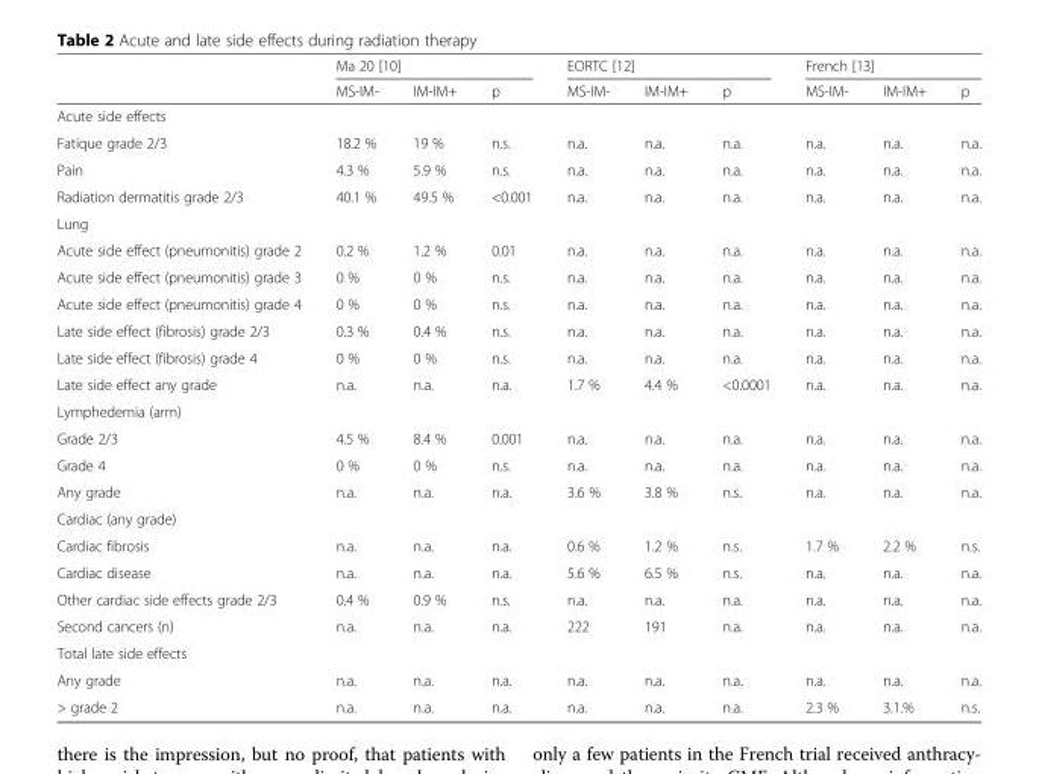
<table><thead><tr><td rowspan="2"></td><td colspan="3">Ma 20 [10]</td><td colspan="3">EORTC [12]</td><td colspan="3">French [13]</td></tr><tr><td>MS-IM-</td><td>IM-IM+</td><td>p</td><td>MS-IM-</td><td>IM-IM+</td><td>p</td><td>MS-IM-</td><td>IM-IM+</td><td>p</td></tr></thead><tbody><tr><td colspan="10">Acute side effects</td></tr><tr><td>Fatique grade 2/3</td><td>18.2 %</td><td>19 %</td><td>n.s.</td><td>n.a.</td><td>n.a.</td><td>n.a.</td><td>n.a.</td><td>n.a.</td><td>n.a.</td></tr><tr><td>Pain</td><td>4.3 %</td><td>5.9 %</td><td>n.s.</td><td>n.a.</td><td>n.a.</td><td>n.a.</td><td>n.a.</td><td>n.a.</td><td>n.a.</td></tr><tr><td>Radiation dermatitis grade 2/3</td><td>40.1 %</td><td>49.5 %</td><td>&lt;0.001</td><td>n.a.</td><td>n.a.</td><td>n.a.</td><td>n.a.</td><td>n.a.</td><td>n.a.</td></tr><tr><td colspan="10">Lung</td></tr><tr><td>Acute side effect (pneumonitis) grade 2</td><td>0.2 %</td><td>1.2 %</td><td>0.01</td><td>n.a.</td><td>n.a.</td><td>n.a.</td><td>n.a.</td><td>n.a.</td><td>n.a.</td></tr><tr><td>Acute side effect (pneumonitis) grade 3</td><td>0 %</td><td>0 %</td><td>n.s.</td><td>n.a.</td><td>n.a.</td><td>n.a.</td><td>n.a.</td><td>n.a.</td><td>n.a.</td></tr><tr><td>Acute side effect (pneumonitis) grade 4</td><td>0 %</td><td>0 %</td><td>n.s.</td><td>n.a.</td><td>n.a.</td><td>n.a.</td><td>n.a.</td><td>n.a.</td><td>n.a.</td></tr><tr><td>Late side effect (fibrosis) grade 2/3</td><td>0.3 %</td><td>0.4 %</td><td>n.s.</td><td>n.a.</td><td>n.a.</td><td>n.a.</td><td>n.a.</td><td>n.a.</td><td>n.a.</td></tr><tr><td>Late side effect (fibrosis) grade 4</td><td>0 %</td><td>0 %</td><td>n.s.</td><td>n.a.</td><td>n.a.</td><td>n.a.</td><td>n.a.</td><td>n.a.</td><td>n.a.</td></tr><tr><td>Late side effect any grade</td><td>n.a.</td><td>n.a.</td><td>n.a.</td><td>1.7 %</td><td>4.4 %</td><td>&lt;0.0001</td><td>n.a.</td><td>n.a.</td><td>n.a.</td></tr><tr><td colspan="10">Lymphedemia (arm)</td></tr><tr><td>Grade 2/3</td><td>4.5 %</td><td>8.4 %</td><td>0.001</td><td>n.a.</td><td>n.a.</td><td>n.a.</td><td>n.a.</td><td>n.a.</td><td>n.a.</td></tr><tr><td>Grade 4</td><td>0 %</td><td>0 %</td><td>n.s.</td><td>n.a.</td><td>n.a.</td><td>n.a.</td><td>n.a.</td><td>n.a.</td><td>n.a.</td></tr><tr><td>Any grade</td><td>n.a.</td><td>n.a.</td><td>n.a.</td><td>3.6 %</td><td>3.8 %</td><td>n.s.</td><td>n.a.</td><td>n.a.</td><td>n.a.</td></tr><tr><td colspan="10">Cardiac (any grade)</td></tr><tr><td>Cardiac fibrosis</td><td>n.a.</td><td>n.a.</td><td>n.a.</td><td>0.6 %</td><td>1.2 %</td><td>n.s.</td><td>1.7 %</td><td>2.2 %</td><td>n.s.</td></tr><tr><td>Cardiac disease</td><td>n.a.</td><td>n.a.</td><td>n.a.</td><td>5.6 %</td><td>6.5 %</td><td>n.s.</td><td>n.a.</td><td>n.a.</td><td>n.a.</td></tr><tr><td>Other cardiac side effects grade 2/3</td><td>0.4 %</td><td>0.9 %</td><td>n.s.</td><td>n.a.</td><td>n.a.</td><td>n.a.</td><td>n.a.</td><td>n.a.</td><td>n.a.</td></tr><tr><td>Second cancers (n)</td><td>n.a.</td><td>n.a.</td><td>n.a.</td><td>222</td><td>191</td><td>n.a.</td><td>n.a.</td><td>n.a.</td><td>n.a.</td></tr><tr><td colspan="10">Total late side effects</td></tr><tr><td>Any grade</td><td>n.a.</td><td>n.a.</td><td>n.a.</td><td>n.a.</td><td>n.a.</td><td>n.a.</td><td>n.a.</td><td>n.a.</td><td>n.a.</td></tr><tr><td>&gt; grade 2</td><td>n.a.</td><td>n.a.</td><td>n.a.</td><td>n.a.</td><td>n.a.</td><td>n.a.</td><td>2.3 %</td><td>3.1.%</td><td>n.s.</td></tr></tbody></table>